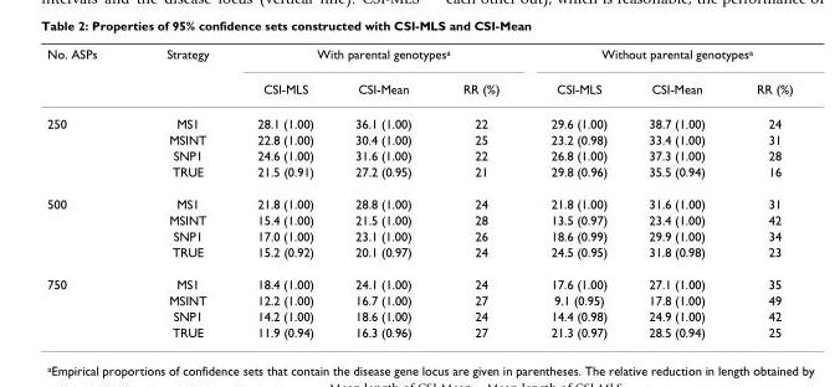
<table><thead><tr><td rowspan="2">No. ASPs</td><td rowspan="2">Strategy</td><td colspan="3">With parental genotypes<sup>a</sup></td><td colspan="3">Without parental genotypes<sup>a</sup></td></tr><tr><td>CSI-MLS</td><td>CSI-Mean</td><td>RR (%)</td><td>CSI-MLS</td><td>CSI-Mean</td><td>RR (%)</td></tr></thead><tbody><tr><td rowspan="4">250</td><td>MS1</td><td>28.1 (1.00)</td><td>36.1 (1.00)</td><td>22</td><td>29.6 (1.00)</td><td>38.7 (1.00)</td><td>24</td></tr><tr><td>MSINT</td><td>22.8 (1.00)</td><td>30.4 (1.00)</td><td>25</td><td>23.2 (0.98)</td><td>33.4 (1.00)</td><td>31</td></tr><tr><td>SNP1</td><td>24.6 (1.00)</td><td>31.6 (1.00)</td><td>22</td><td>26.8 (1.00)</td><td>37.3 (1.00)</td><td>28</td></tr><tr><td>TRUE</td><td>21.5 (0.91)</td><td>27.2 (0.95)</td><td>21</td><td>29.8 (0.96)</td><td>35.5 (0.94)</td><td>16</td></tr><tr><td rowspan="4">500</td><td>MS1</td><td>21.8 (1.00)</td><td>28.8 (1.00)</td><td>24</td><td>21.8 (1.00)</td><td>31.6 (1.00)</td><td>31</td></tr><tr><td>MSINT</td><td>15.4 (1.00)</td><td>21.5 (1.00)</td><td>28</td><td>13.5 (0.97)</td><td>23.4 (1.00)</td><td>42</td></tr><tr><td>SNP1</td><td>17.0 (1.00)</td><td>23.1 (1.00)</td><td>26</td><td>18.6 (0.99)</td><td>29.9 (1.00)</td><td>34</td></tr><tr><td>TRUE</td><td>15.2 (0.92)</td><td>20.1 (0.97)</td><td>24</td><td>24.5 (0.95)</td><td>31.8 (0.98)</td><td>23</td></tr><tr><td rowspan="4">750</td><td>MS1</td><td>18.4 (1.00)</td><td>24.1 (1.00)</td><td>24</td><td>17.6 (1.00)</td><td>27.1 (1.00)</td><td>35</td></tr><tr><td>MSINT</td><td>12.2 (1.00)</td><td>16.7 (1.00)</td><td>27</td><td>9.1 (0.95)</td><td>17.8 (1.00)</td><td>49</td></tr><tr><td>SNP1</td><td>14.2 (1.00)</td><td>18.6 (1.00)</td><td>24</td><td>14.4 (0.98)</td><td>24.9 (1.00)</td><td>42</td></tr><tr><td>TRUE</td><td>11.9 (0.94)</td><td>16.3 (0.96)</td><td>27</td><td>21.3 (0.97)</td><td>28.5 (0.94)</td><td>25</td></tr></tbody></table>